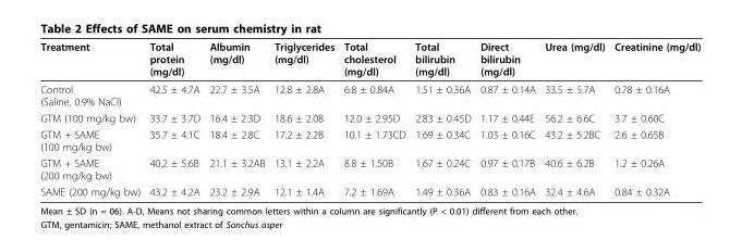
<table><thead><tr><td>Treatment</td><td>Total protein (mg/dl)</td><td>Albumin (mg/dl)</td><td>Triglycerides (mg/dl)</td><td>Total cholesterol (mg/dl)</td><td>Total bilirubin (mg/dl)</td><td>Direct bilirubin (mg/dl)</td><td>Urea (mg/dl)</td><td>Creatinine (mg/dl)</td></tr></thead><tbody><tr><td>Control (Saline, 0.9% NaCl)</td><td>42.5 ± 4.7A</td><td>22.7 ± 3.5A</td><td>12.8 ± 2.8A</td><td>6.8 ± 0.84A</td><td>1.51 ± 0.36A</td><td>0.87 ± 0.14A</td><td>33.5 ± 5.7A</td><td>0.78 ± 0.16A</td></tr><tr><td>GTM (100 mg/kg bw)</td><td>33.7 ± 3.7D</td><td>16.4 ± 2.3D</td><td>18.6 ± 2.0B</td><td>12.0 ± 2.95D</td><td>2.83 ± 0.45D</td><td>1.17 ± 0.44E</td><td>56.2 ± 6.6C</td><td>3.7 ± 0.60C</td></tr><tr><td>GTM + SAME (100 mg/kg bw)</td><td>35.7 ± 4.1C</td><td>18.4 ± 2.8C</td><td>17.2 ± 2.2B</td><td>10.1 ± 1.73CD</td><td>1.69 ± 0.34C</td><td>1.03 ± 0.16C</td><td>43.2 ± 5.2BC</td><td>2.6 ± 0.65B</td></tr><tr><td>GTM + SAME (200 mg/kg bw)</td><td>40.2 ± 5.6B</td><td>21.1 ± 3.2AB</td><td>13.1 ± 2.2A</td><td>8.8 ± 1.50B</td><td>1.67 ± 0.24C</td><td>0.97 ± 0.17B</td><td>40.6 ± 6.2B</td><td>1.2 ± 0.26A</td></tr><tr><td>SAME (200 mg/kg bw)</td><td>43.2 ± 4.2A</td><td>23.2 ± 2.9A</td><td>12.1 ± 1.4A</td><td>7.2 ± 1.69A</td><td>1.49 ± 0.36A</td><td>0.83 ± 0.16A</td><td>32.4 ± 4.6A</td><td>0.84 ± 0.32A</td></tr></tbody></table>